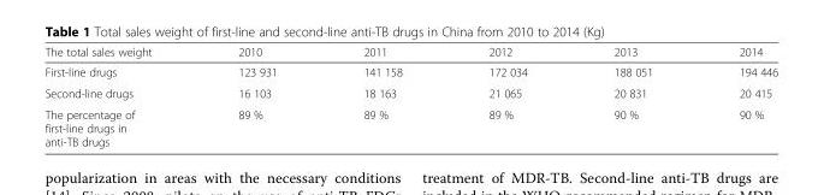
<table><thead><tr><td>The total sales weight</td><td>2010</td><td>2011</td><td>2012</td><td>2013</td><td>2014</td></tr></thead><tbody><tr><td>First-line drugs</td><td>123 931</td><td>141 158</td><td>172 034</td><td>188 051</td><td>194 446</td></tr><tr><td>Second-line drugs</td><td>16 103</td><td>18 163</td><td>21 065</td><td>20 831</td><td>20 415</td></tr><tr><td>The percentage of first-line drugs in anti-TB drugs</td><td>89 %</td><td>89 %</td><td>89 %</td><td>90 %</td><td>90 %</td></tr></tbody></table>